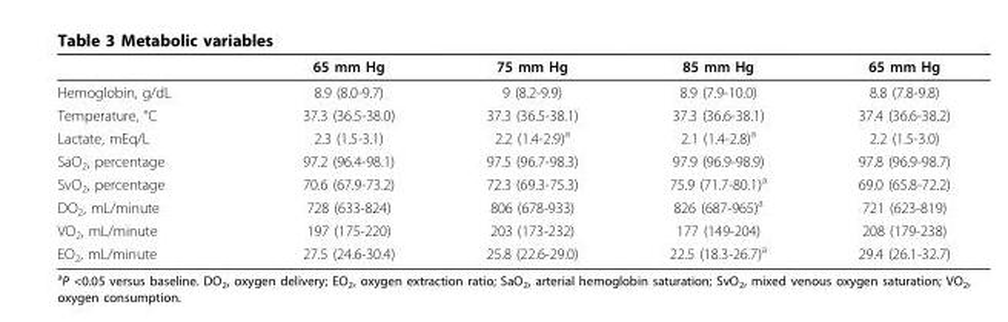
<table><thead><tr><td></td><td>65 mm Hg</td><td>75 mm Hg</td><td>85 mm Hg</td><td>65 mm Hg</td></tr></thead><tbody><tr><td>Hemoglobin, g/dL</td><td>8.9 (8.0-9.7)</td><td>9 (8.2-9.9)</td><td>8.9 (7.9-10.0)</td><td>8.8 (7.8-9.8)</td></tr><tr><td>Temperature, °C</td><td>37.3 (36.5-38.0)</td><td>37.3 (36.5-38.1)</td><td>37.3 (36.6-38.1)</td><td>37.4 (36.6-38.2)</td></tr><tr><td>Lactate, mEq/L</td><td>2.3 (1.5-3.1)</td><td>2.2 (1.4-2.9)<sup>a</sup></td><td>2.1 (1.4-2.8)<sup>a</sup></td><td>2.2 (1.5-3.0)</td></tr><tr><td>SaO<sub>2</sub>, percentage</td><td>97.2 (96.4-98.1)</td><td>97.5 (96.7-98.3)</td><td>97.9 (96.9-98.9)</td><td>97.8 (96.9-98.7)</td></tr><tr><td>SvO<sub>2</sub>, percentage</td><td>70.6 (67.9-73.2)</td><td>72.3 (69.3-75.3)</td><td>75.9 (71.7-80.1)<sup>a</sup></td><td>69.0 (65.8-72.2)</td></tr><tr><td>DO<sub>2</sub>, mL/minute</td><td>728 (633-824)</td><td>806 (678-933)</td><td>826 (687-965)<sup>a</sup></td><td>721 (623-819)</td></tr><tr><td>VO<sub>2</sub>, mL/minute</td><td>197 (175-220)</td><td>203 (173-232)</td><td>177 (149-204)</td><td>208 (179-238)</td></tr><tr><td>EO<sub>2</sub>, mL/minute</td><td>27.5 (24.6-30.4)</td><td>25.8 (22.6-29.0)</td><td>22.5 (18.3-26.7)<sup>a</sup></td><td>29.4 (26.1-32.7)</td></tr></tbody></table>